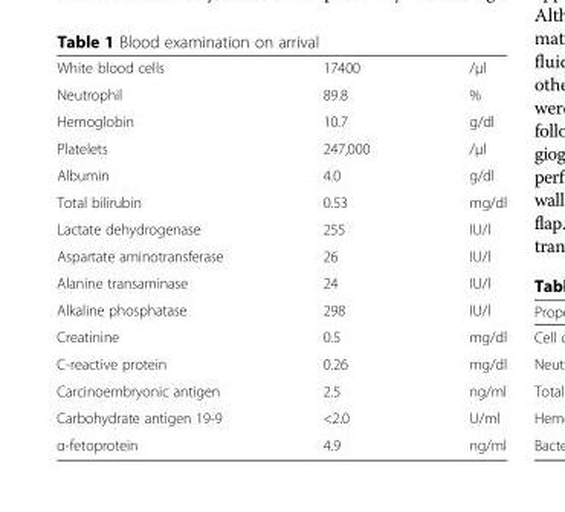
<table><tbody><tr><td>White blood cells</td><td>17400</td><td>/μl</td></tr><tr><td>Neutrophil</td><td>89.8</td><td>%</td></tr><tr><td>Hemoglobin</td><td>10.7</td><td>g/dl</td></tr><tr><td>Platelets</td><td>247,000</td><td>/μl</td></tr><tr><td>Albumin</td><td>4.0</td><td>g/dl</td></tr><tr><td>Total bilirubin</td><td>0.53</td><td>mg/dl</td></tr><tr><td>Lactate dehydrogenase</td><td>255</td><td>IU/l</td></tr><tr><td>Aspartate aminotransferase</td><td>26</td><td>IU/l</td></tr><tr><td>Alanine transaminase</td><td>24</td><td>IU/l</td></tr><tr><td>Alkaline phosphatase</td><td>298</td><td>IU/l</td></tr><tr><td>Creatinine</td><td>0.5</td><td>mg/dl</td></tr><tr><td>C-reactive protein</td><td>0.26</td><td>mg/dl</td></tr><tr><td>Carcinoembryonic antigen</td><td>2.5</td><td>ng/ml</td></tr><tr><td>Carbohydrate antigen 19-9</td><td>&lt;2.0</td><td>U/ml</td></tr><tr><td>α-fetoprotein</td><td>4.9</td><td>ng/ml</td></tr></tbody></table>